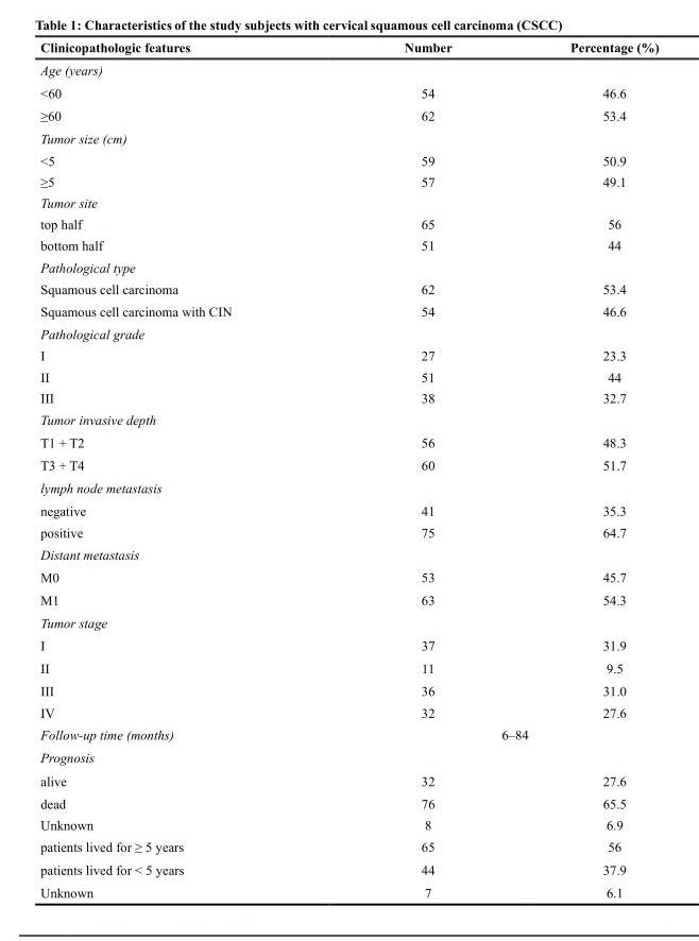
<table><thead><tr><td>Clinicopathologic features</td><td>Number</td><td>Percentage (%)</td></tr></thead><tbody><tr><td colspan="3">Age (years)</td></tr><tr><td>&lt;60</td><td>54</td><td>46.6</td></tr><tr><td>≥60</td><td>62</td><td>53.4</td></tr><tr><td colspan="3">Tumor size (cm)</td></tr><tr><td>&lt;5</td><td>59</td><td>50.9</td></tr><tr><td>≥5</td><td>57</td><td>49.1</td></tr><tr><td colspan="3">Tumor site</td></tr><tr><td>top half</td><td>65</td><td>56</td></tr><tr><td>bottom half</td><td>51</td><td>44</td></tr><tr><td colspan="3">Pathological type</td></tr><tr><td>Squamous cell carcinoma</td><td>62</td><td>53.4</td></tr><tr><td>Squamous cell carcinoma with CIN</td><td>54</td><td>46.6</td></tr><tr><td colspan="3">Pathological grade</td></tr><tr><td>I</td><td>27</td><td>23.3</td></tr><tr><td>II</td><td>51</td><td>44</td></tr><tr><td>III</td><td>38</td><td>32.7</td></tr><tr><td colspan="3">Tumor invasive depth</td></tr><tr><td>T1 + T2</td><td>56</td><td>48.3</td></tr><tr><td>T3 + T4</td><td>60</td><td>51.7</td></tr><tr><td colspan="3">lymph node metastasis</td></tr><tr><td>negative</td><td>41</td><td>35.3</td></tr><tr><td>positive</td><td>75</td><td>64.7</td></tr><tr><td colspan="3">Distant metastasis</td></tr><tr><td>M0</td><td>53</td><td>45.7</td></tr><tr><td>M1</td><td>63</td><td>54.3</td></tr><tr><td colspan="3">Tumor stage</td></tr><tr><td>I</td><td>37</td><td>31.9</td></tr><tr><td>II</td><td>11</td><td>9.5</td></tr><tr><td>III</td><td>36</td><td>31.0</td></tr><tr><td>IV</td><td>32</td><td>27.6</td></tr><tr><td>Follow-up time (months)</td><td colspan="2">6–84</td></tr><tr><td colspan="3">Prognosis</td></tr><tr><td>alive</td><td>32</td><td>27.6</td></tr><tr><td>dead</td><td>76</td><td>65.5</td></tr><tr><td>Unknown</td><td>8</td><td>6.9</td></tr><tr><td>patients lived for ≥ 5 years</td><td>65</td><td>56</td></tr><tr><td>patients lived for &lt; 5 years</td><td>44</td><td>37.9</td></tr><tr><td>Unknown</td><td>7</td><td>6.1</td></tr></tbody></table>